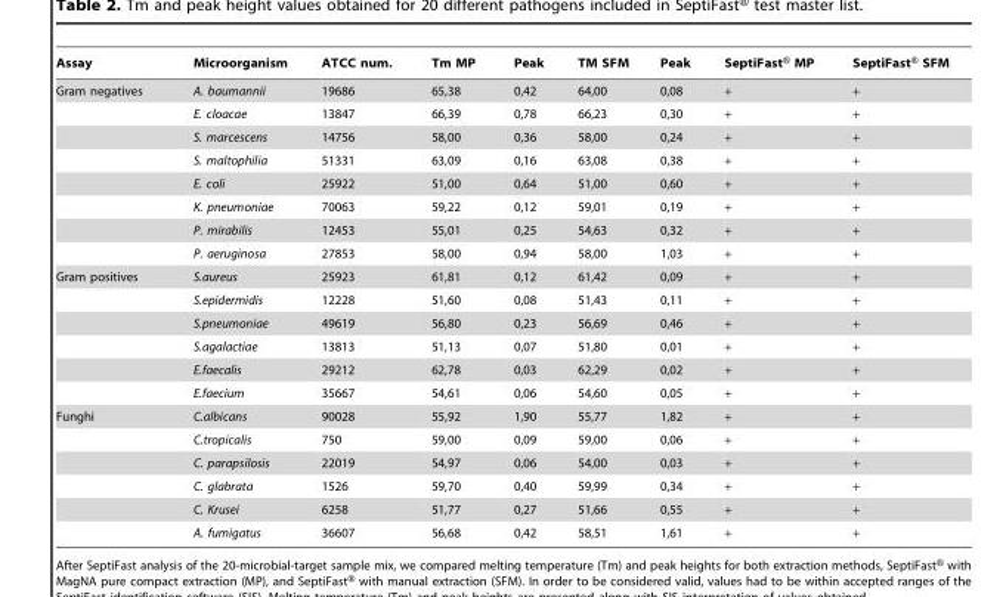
<table><thead><tr><td>Assay</td><td>Microorganism</td><td>ATCC num.</td><td>Tm MP</td><td>Peak</td><td>TM SFM</td><td>Peak</td><td>SeptiFast® MP</td><td>SeptiFast® SFM</td></tr></thead><tbody><tr><td rowspan="8">Gram negatives</td><td>A. baumannii</td><td>19686</td><td>65,38</td><td>0,42</td><td>64,00</td><td>0,08</td><td>+</td><td>+</td></tr><tr><td>E. cloacae</td><td>13847</td><td>66,39</td><td>0,78</td><td>66,23</td><td>0,30</td><td>+</td><td>+</td></tr><tr><td>S. marcescens</td><td>14756</td><td>58,00</td><td>0,36</td><td>58,00</td><td>0,24</td><td>+</td><td>+</td></tr><tr><td>S. maltophilia</td><td>51331</td><td>63,09</td><td>0,16</td><td>63,08</td><td>0,38</td><td>+</td><td>+</td></tr><tr><td>E. coli</td><td>25922</td><td>51,00</td><td>0,64</td><td>51,00</td><td>0,60</td><td>+</td><td>+</td></tr><tr><td>K. pneumoniae</td><td>70063</td><td>59,22</td><td>0,12</td><td>59,01</td><td>0,19</td><td>+</td><td>+</td></tr><tr><td>P. mirabilis</td><td>12453</td><td>55,01</td><td>0,25</td><td>54,63</td><td>0,32</td><td>+</td><td>+</td></tr><tr><td>P. aeruginosa</td><td>27853</td><td>58,00</td><td>0,94</td><td>58,00</td><td>1,03</td><td>+</td><td>+</td></tr><tr><td rowspan="6">Gram positives</td><td>S.aureus</td><td>25923</td><td>61,81</td><td>0,12</td><td>61,42</td><td>0,09</td><td>+</td><td>+</td></tr><tr><td>S.epidermidis</td><td>12228</td><td>51,60</td><td>0,08</td><td>51,43</td><td>0,11</td><td>+</td><td>+</td></tr><tr><td>S.pneumoniae</td><td>49619</td><td>56,80</td><td>0,23</td><td>56,69</td><td>0,46</td><td>+</td><td>+</td></tr><tr><td>S.agalactiae</td><td>13813</td><td>51,13</td><td>0,07</td><td>51,80</td><td>0,01</td><td>+</td><td>+</td></tr><tr><td>E.faecalis</td><td>29212</td><td>62,78</td><td>0,03</td><td>62,29</td><td>0,02</td><td>+</td><td>+</td></tr><tr><td>E.faecium</td><td>35667</td><td>54,61</td><td>0,06</td><td>54,60</td><td>0,05</td><td>+</td><td>+</td></tr><tr><td rowspan="6">Funghi</td><td>C.albicans</td><td>90028</td><td>55,92</td><td>1,90</td><td>55,77</td><td>1,82</td><td>+</td><td>+</td></tr><tr><td>C.tropicalis</td><td>750</td><td>59,00</td><td>0,09</td><td>59,00</td><td>0,06</td><td>+</td><td>+</td></tr><tr><td>C. parapsilosis</td><td>22019</td><td>54,97</td><td>0,06</td><td>54,00</td><td>0,03</td><td>+</td><td>+</td></tr><tr><td>C. glabrata</td><td>1526</td><td>59,70</td><td>0,40</td><td>59,99</td><td>0,34</td><td>+</td><td>+</td></tr><tr><td>C. Krusei</td><td>6258</td><td>51,77</td><td>0,27</td><td>51,66</td><td>0,55</td><td>+</td><td>+</td></tr><tr><td>A. fumigatus</td><td>36607</td><td>56,68</td><td>0,42</td><td>58,51</td><td>1,61</td><td>+</td><td>+</td></tr></tbody></table>